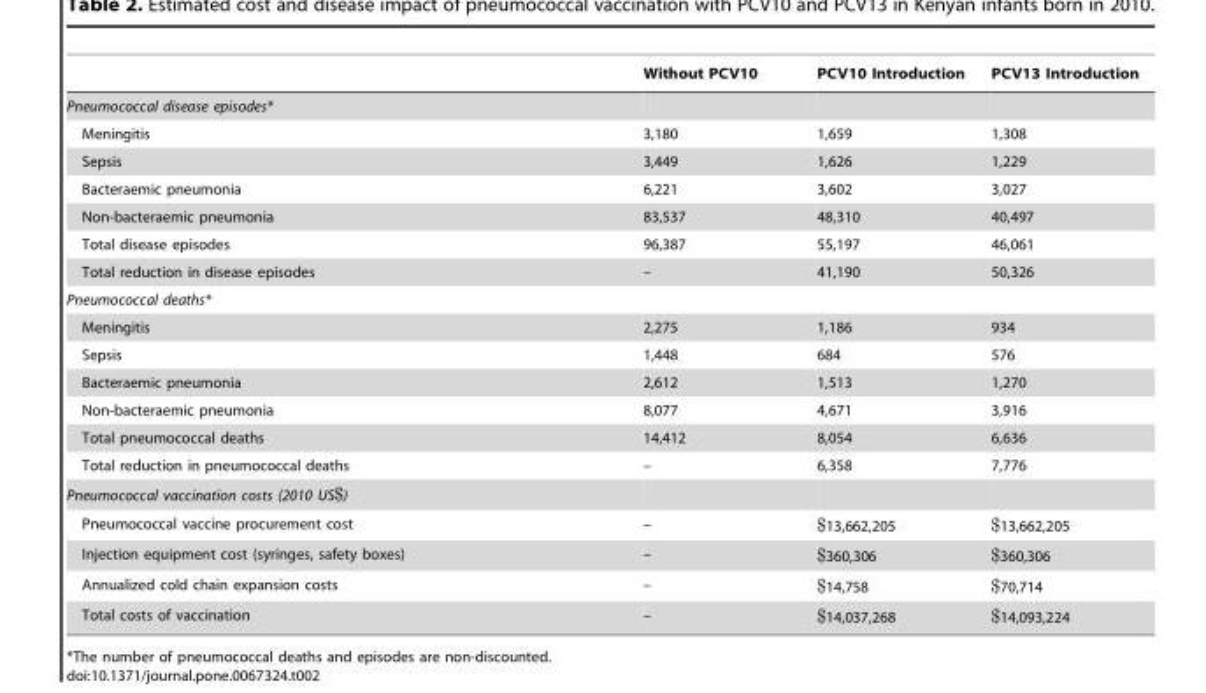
<table><thead><tr><td></td><td>Without PCV10</td><td>PCV10 Introduction</td><td>PCV13 Introduction</td></tr></thead><tbody><tr><td colspan="4">Pneumococcal disease episodes*</td></tr><tr><td>Meningitis</td><td>3,180</td><td>1,659</td><td>1,308</td></tr><tr><td>Sepsis</td><td>3,449</td><td>1,626</td><td>1,229</td></tr><tr><td>Bacteraemic pneumonia</td><td>6,221</td><td>3,602</td><td>3,027</td></tr><tr><td>Non-bacteraemic pneumonia</td><td>83,537</td><td>48,310</td><td>40,497</td></tr><tr><td>Total disease episodes</td><td>96,387</td><td>55,197</td><td>46,061</td></tr><tr><td>Total reduction in disease episodes</td><td>–</td><td>41,190</td><td>50,326</td></tr><tr><td colspan="4">Pneumococcal deaths*</td></tr><tr><td>Meningitis</td><td>2,275</td><td>1,186</td><td>934</td></tr><tr><td>Sepsis</td><td>1,448</td><td>684</td><td>576</td></tr><tr><td>Bacteraemic pneumonia</td><td>2,612</td><td>1,513</td><td>1,270</td></tr><tr><td>Non-bacteraemic pneumonia</td><td>8,077</td><td>4,671</td><td>3,916</td></tr><tr><td>Total pneumococcal deaths</td><td>14,412</td><td>8,054</td><td>6,636</td></tr><tr><td>Total reduction in pneumococcal deaths</td><td>–</td><td>6,358</td><td>7,776</td></tr><tr><td colspan="4">Pneumococcal vaccination costs (2010 US$)</td></tr><tr><td>Pneumococcal vaccine procurement cost</td><td>–</td><td>$13,662,205</td><td>$13,662,205</td></tr><tr><td>Injection equipment cost (syringes, safety boxes)</td><td>–</td><td>$360,306</td><td>$360,306</td></tr><tr><td>Annualized cold chain expansion costs</td><td>–</td><td>$14,758</td><td>$70,714</td></tr><tr><td>Total costs of vaccination</td><td>–</td><td>$14,037,268</td><td>$14,093,224</td></tr></tbody></table>